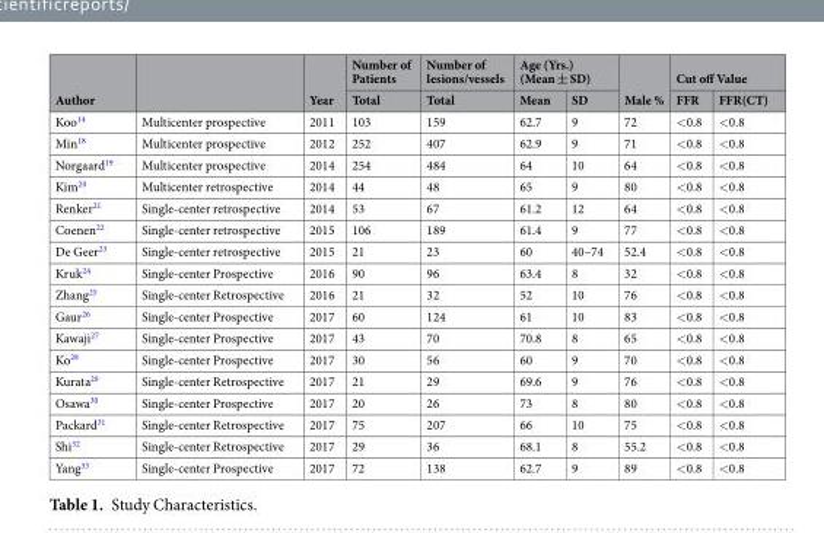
<table><thead><tr><td rowspan="2">Author</td><td rowspan="2"></td><td rowspan="2">Year</td><td rowspan="2">Number of Patients Total</td><td rowspan="2">Number of lesions/vessels Total</td><td colspan="2">Age (Yrs.) (Mean ± SD)</td><td rowspan="2">Male %</td><td colspan="2">Cut off Value</td></tr><tr><td>Mean</td><td>SD</td><td>FFR</td><td>FFR(CT)</td></tr></thead><tbody><tr><td>Koo<sup>14</sup></td><td>Multicenter prospective</td><td>2011</td><td>103</td><td>159</td><td>62.7</td><td>9</td><td>72</td><td>&lt;0.8</td><td>&lt;0.8</td></tr><tr><td>Min<sup>18</sup></td><td>Multicenter prospective</td><td>2012</td><td>252</td><td>407</td><td>62.9</td><td>9</td><td>71</td><td>&lt;0.8</td><td>&lt;0.8</td></tr><tr><td>Norgaard<sup>19</sup></td><td>Multicenter prospective</td><td>2014</td><td>254</td><td>484</td><td>64</td><td>10</td><td>64</td><td>&lt;0.8</td><td>&lt;0.8</td></tr><tr><td>Kim<sup>20</sup></td><td>Multicenter retrospective</td><td>2014</td><td>44</td><td>48</td><td>65</td><td>9</td><td>80</td><td>&lt;0.8</td><td>&lt;0.8</td></tr><tr><td>Renker<sup>21</sup></td><td>Single-center retrospective</td><td>2014</td><td>53</td><td>67</td><td>61.2</td><td>12</td><td>64</td><td>&lt;0.8</td><td>&lt;0.8</td></tr><tr><td>Coenen<sup>22</sup></td><td>Single-center retrospective</td><td>2015</td><td>106</td><td>189</td><td>61.4</td><td>9</td><td>77</td><td>&lt;0.8</td><td>&lt;0.8</td></tr><tr><td>De Geer<sup>23</sup></td><td>Single-center retrospective</td><td>2015</td><td>21</td><td>23</td><td>60</td><td>40–74</td><td>52.4</td><td>&lt;0.8</td><td>&lt;0.8</td></tr><tr><td>Kruk<sup>24</sup></td><td>Single-center Prospective</td><td>2016</td><td>90</td><td>96</td><td>63.4</td><td>8</td><td>32</td><td>&lt;0.8</td><td>&lt;0.8</td></tr><tr><td>Zhang<sup>25</sup></td><td>Single-center Retrospective</td><td>2016</td><td>21</td><td>32</td><td>52</td><td>10</td><td>76</td><td>&lt;0.8</td><td>&lt;0.8</td></tr><tr><td>Gaur<sup>26</sup></td><td>Single-center Prospective</td><td>2017</td><td>60</td><td>124</td><td>61</td><td>10</td><td>83</td><td>&lt;0.8</td><td>&lt;0.8</td></tr><tr><td>Kawaji<sup>27</sup></td><td>Single-center Prospective</td><td>2017</td><td>43</td><td>70</td><td>70.8</td><td>8</td><td>65</td><td>&lt;0.8</td><td>&lt;0.8</td></tr><tr><td>Ko<sup>28</sup></td><td>Single-center Prospective</td><td>2017</td><td>30</td><td>56</td><td>60</td><td>9</td><td>70</td><td>&lt;0.8</td><td>&lt;0.8</td></tr><tr><td>Kurata<sup>29</sup></td><td>Single-center Retrospective</td><td>2017</td><td>21</td><td>29</td><td>69.6</td><td>9</td><td>76</td><td>&lt;0.8</td><td>&lt;0.8</td></tr><tr><td>Osawa<sup>30</sup></td><td>Single-center Prospective</td><td>2017</td><td>20</td><td>26</td><td>73</td><td>8</td><td>80</td><td>&lt;0.8</td><td>&lt;0.8</td></tr><tr><td>Packard<sup>31</sup></td><td>Single-center Retrospective</td><td>2017</td><td>75</td><td>207</td><td>66</td><td>10</td><td>75</td><td>&lt;0.8</td><td>&lt;0.8</td></tr><tr><td>Shi<sup>32</sup></td><td>Single-center Retrospective</td><td>2017</td><td>29</td><td>36</td><td>68.1</td><td>8</td><td>55.2</td><td>&lt;0.8</td><td>&lt;0.8</td></tr><tr><td>Yang<sup>33</sup></td><td>Single-center Prospective</td><td>2017</td><td>72</td><td>138</td><td>62.7</td><td>9</td><td>89</td><td>&lt;0.8</td><td>&lt;0.8</td></tr></tbody></table>